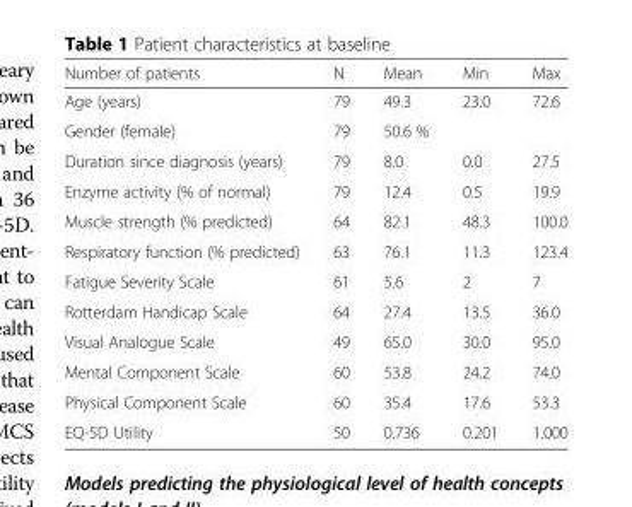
<table><thead><tr><td>Number of patients</td><td>N</td><td>Mean</td><td>Min</td><td>Max</td></tr></thead><tbody><tr><td>Age (years)</td><td>79</td><td>49.3</td><td>23.0</td><td>72.6</td></tr><tr><td>Gender (female)</td><td>79</td><td>50.6 %</td><td></td><td></td></tr><tr><td>Duration since diagnosis (years)</td><td>79</td><td>8.0</td><td>0.0</td><td>27.5</td></tr><tr><td>Enzyme activity (% of normal)</td><td>79</td><td>12.4</td><td>0.5</td><td>19.9</td></tr><tr><td>Muscle strength (% predicted)</td><td>64</td><td>82.1</td><td>48.3</td><td>100.0</td></tr><tr><td>Respiratory function (% predicted)</td><td>63</td><td>76.1</td><td>11.3</td><td>123.4</td></tr><tr><td>Fatigue Severity Scale</td><td>61</td><td>5.6</td><td>2</td><td>7</td></tr><tr><td>Rotterdam Handicap Scale</td><td>64</td><td>27.4</td><td>13.5</td><td>36.0</td></tr><tr><td>Visual Analogue Scale</td><td>49</td><td>65.0</td><td>30.0</td><td>95.0</td></tr><tr><td>Mental Component Scale</td><td>60</td><td>53.8</td><td>24.2</td><td>74.0</td></tr><tr><td>Physical Component Scale</td><td>60</td><td>35.4</td><td>17.6</td><td>53.3</td></tr><tr><td>EQ-5D Utility</td><td>50</td><td>0.736</td><td>0.201</td><td>1.000</td></tr></tbody></table>